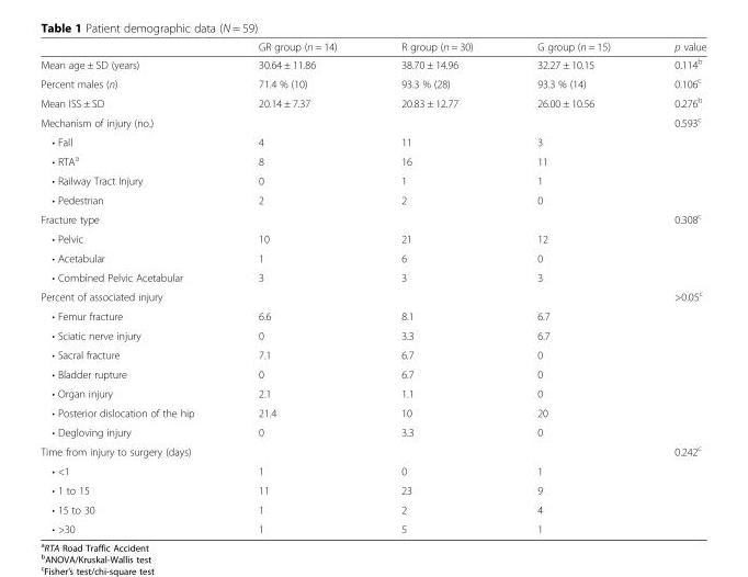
<table><thead><tr><td></td><td>GR group (n = 14)</td><td>R group (n = 30)</td><td>G group (n = 15)</td><td>p value</td></tr></thead><tbody><tr><td>Mean age ± SD (years)</td><td>30.64 ± 11.86</td><td>38.70 ± 14.96</td><td>32.27 ± 10.15</td><td>0.114<sup>b</sup></td></tr><tr><td>Percent males (n)</td><td>71.4 % (10)</td><td>93.3 % (28)</td><td>93.3 % (14)</td><td>0.106<sup>c</sup></td></tr><tr><td>Mean ISS ± SD</td><td>20.14 ± 7.37</td><td>20.83 ± 12.77</td><td>26.00 ± 10.56</td><td>0.276<sup>b</sup></td></tr><tr><td>Mechanism of injury (no.)</td><td></td><td></td><td></td><td>0.593<sup>c</sup></td></tr><tr><td>• Fall</td><td>4</td><td>11</td><td>3</td><td></td></tr><tr><td>• RTA<sup>a</sup></td><td>8</td><td>16</td><td>11</td><td></td></tr><tr><td>• Railway Tract Injury</td><td>0</td><td>1</td><td>1</td><td></td></tr><tr><td>• Pedestrian</td><td>2</td><td>2</td><td>0</td><td></td></tr><tr><td>Fracture type</td><td></td><td></td><td></td><td>0.308<sup>c</sup></td></tr><tr><td>• Pelvic</td><td>10</td><td>21</td><td>12</td><td></td></tr><tr><td>• Acetabular</td><td>1</td><td>6</td><td>0</td><td></td></tr><tr><td>• Combined Pelvic Acetabular</td><td>3</td><td>3</td><td>3</td><td></td></tr><tr><td>Percent of associated injury</td><td></td><td></td><td></td><td>&gt;0.05<sup>c</sup></td></tr><tr><td>• Femur fracture</td><td>6.6</td><td>8.1</td><td>6.7</td><td></td></tr><tr><td>• Sciatic nerve injury</td><td>0</td><td>3.3</td><td>6.7</td><td></td></tr><tr><td>• Sacral fracture</td><td>7.1</td><td>6.7</td><td>0</td><td></td></tr><tr><td>• Bladder rupture</td><td>0</td><td>6.7</td><td>0</td><td></td></tr><tr><td>• Organ injury</td><td>2.1</td><td>1.1</td><td>0</td><td></td></tr><tr><td>• Posterior dislocation of the hip</td><td>21.4</td><td>10</td><td>20</td><td></td></tr><tr><td>• Degloving injury</td><td>0</td><td>3.3</td><td>0</td><td></td></tr><tr><td>Time from injury to surgery (days)</td><td></td><td></td><td></td><td>0.242<sup>c</sup></td></tr><tr><td>• &lt;1</td><td>1</td><td>0</td><td>1</td><td></td></tr><tr><td>• 1 to 15</td><td>11</td><td>23</td><td>9</td><td></td></tr><tr><td>• 15 to 30</td><td>1</td><td>2</td><td>4</td><td></td></tr><tr><td>• &gt;30</td><td>1</td><td>5</td><td>1</td><td></td></tr></tbody></table>